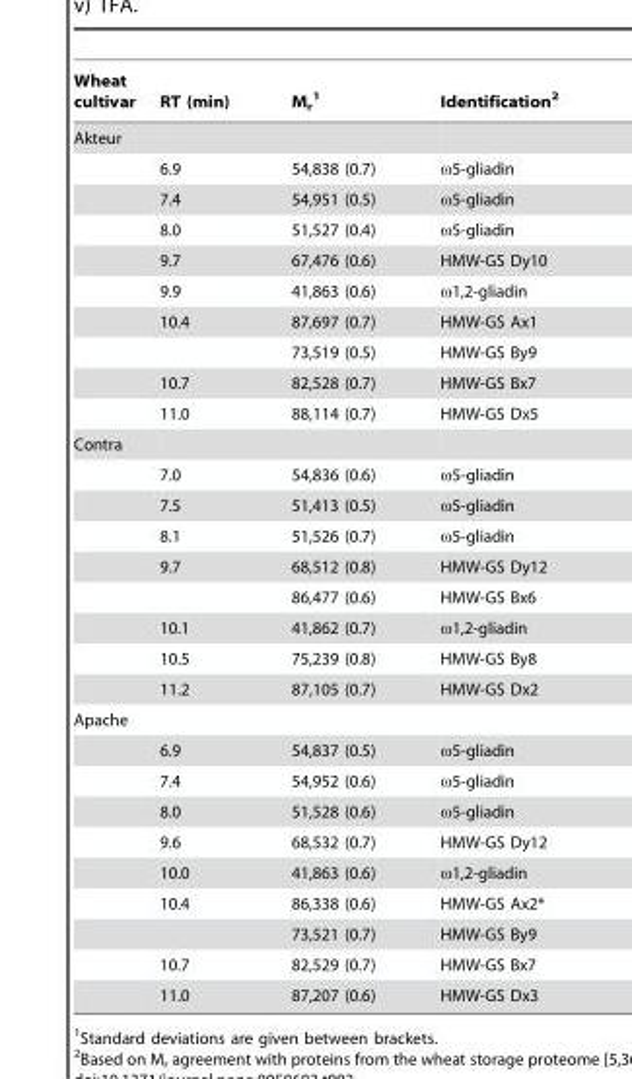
<table><thead><tr><td>Wheat cultivar</td><td>RT (min)</td><td>M<sub>r</sub> 1</td><td>Identification<sup>2</sup></td></tr></thead><tbody><tr><td colspan="4">Akteur</td></tr><tr><td></td><td>6.9</td><td>54,838 (0.7)</td><td>ω5-gliadin</td></tr><tr><td></td><td>7.4</td><td>54,951 (0.5)</td><td>ω5-gliadin</td></tr><tr><td></td><td>8.0</td><td>51,527 (0.4)</td><td>ω5-gliadin</td></tr><tr><td></td><td>9.7</td><td>67,476 (0.6)</td><td>HMW-GS Dy10</td></tr><tr><td></td><td>9.9</td><td>41,863 (0.6)</td><td>ω1,2-gliadin</td></tr><tr><td></td><td>10.4</td><td>87,697 (0.7)</td><td>HMW-GS Ax1</td></tr><tr><td></td><td></td><td>73,519 (0.5)</td><td>HMW-GS By9</td></tr><tr><td></td><td>10.7</td><td>82,528 (0.7)</td><td>HMW-GS Bx7</td></tr><tr><td></td><td>11.0</td><td>88,114 (0.7)</td><td>HMW-GS Dx5</td></tr><tr><td colspan="4">Contra</td></tr><tr><td></td><td>7.0</td><td>54,836 (0.6)</td><td>ω5-gliadin</td></tr><tr><td></td><td>7.5</td><td>51,413 (0.5)</td><td>ω5-gliadin</td></tr><tr><td></td><td>8.1</td><td>51,526 (0.7)</td><td>ω5-gliadin</td></tr><tr><td></td><td>9.7</td><td>68,512 (0.8)</td><td>HMW-GS Dy12</td></tr><tr><td></td><td></td><td>86,477 (0.6)</td><td>HMW-GS Bx6</td></tr><tr><td></td><td>10.1</td><td>41,862 (0.7)</td><td>ω1,2-gliadin</td></tr><tr><td></td><td>10.5</td><td>75,239 (0.8)</td><td>HMW-GS By8</td></tr><tr><td></td><td>11.2</td><td>87,105 (0.7)</td><td>HMW-GS Dx2</td></tr><tr><td colspan="4">Apache</td></tr><tr><td></td><td>6.9</td><td>54,837 (0.5)</td><td>ω5-gliadin</td></tr><tr><td></td><td>7.4</td><td>54,952 (0.6)</td><td>ω5-gliadin</td></tr><tr><td></td><td>8.0</td><td>51,528 (0.6)</td><td>ω5-gliadin</td></tr><tr><td></td><td>9.6</td><td>68,532 (0.7)</td><td>HMW-GS Dy12</td></tr><tr><td></td><td>10.0</td><td>41,863 (0.6)</td><td>ω1,2-gliadin</td></tr><tr><td></td><td>10.4</td><td>86,338 (0.6)</td><td>HMW-GS Ax2*</td></tr><tr><td></td><td></td><td>73,521 (0.7)</td><td>HMW-GS By9</td></tr><tr><td></td><td>10.7</td><td>82,529 (0.7)</td><td>HMW-GS Bx7</td></tr><tr><td></td><td>11.0</td><td>87,207 (0.6)</td><td>HMW-GS Dx3</td></tr></tbody></table>